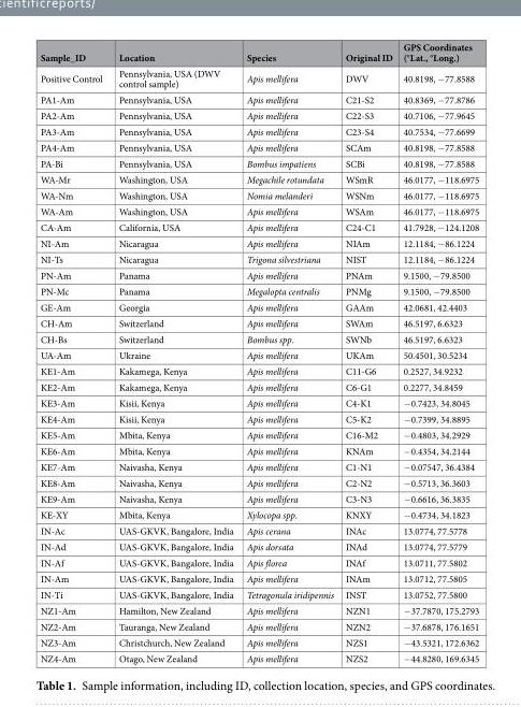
<table><thead><tr><td>Sample_ID</td><td>Location</td><td>Species</td><td>Original ID</td><td>GPS Coordinates (°Lat., °Long.)</td></tr></thead><tbody><tr><td>Positive Control</td><td>Pennsylvania, USA (DWV control sample)</td><td>Apis mellifera</td><td>DWV</td><td>40.8198, −77.8588</td></tr><tr><td>PA1-Am</td><td>Pennsylvania, USA</td><td>Apis mellifera</td><td>C21-S2</td><td>40.8369, −77.8786</td></tr><tr><td>PA2-Am</td><td>Pennsylvania, USA</td><td>Apis mellifera</td><td>C22-S3</td><td>40.7106, −77.9645</td></tr><tr><td>PA3-Am</td><td>Pennsylvania, USA</td><td>Apis mellifera</td><td>C23-S4</td><td>40.7534, −77.6699</td></tr><tr><td>PA4-Am</td><td>Pennsylvania, USA</td><td>Apis mellifera</td><td>SCAm</td><td>40.8198, −77.8588</td></tr><tr><td>PA-Bi</td><td>Pennsylvania, USA</td><td>Bombus impatiens</td><td>SCBi</td><td>40.8198, −77.8588</td></tr><tr><td>WA-Mr</td><td>Washington, USA</td><td>Megachile rotundata</td><td>WSmR</td><td>46.0177, −118.6975</td></tr><tr><td>WA-Nm</td><td>Washington, USA</td><td>Nomia melanderi</td><td>WSNm</td><td>46.0177, −118.6975</td></tr><tr><td>WA-Am</td><td>Washington, USA</td><td>Apis mellifera</td><td>WSAm</td><td>46.0177, −118.6975</td></tr><tr><td>CA-Am</td><td>California, USA</td><td>Apis mellifera</td><td>C24-C1</td><td>41.7928, −124.1208</td></tr><tr><td>NI-Am</td><td>Nicaragua</td><td>Apis mellifera</td><td>NIAm</td><td>12.1184, −86.1224</td></tr><tr><td>NI-Ts</td><td>Nicaragua</td><td>Trigona silvestriana</td><td>NIST</td><td>12.1184, −86.1224</td></tr><tr><td>PN-Am</td><td>Panama</td><td>Apis mellifera</td><td>PNAm</td><td>9.1500, −79.8500</td></tr><tr><td>PN-Mc</td><td>Panama</td><td>Megalopta centralis</td><td>PNMg</td><td>9.1500, −79.8500</td></tr><tr><td>GE-Am</td><td>Georgia</td><td>Apis mellifera</td><td>GAAm</td><td>42.0681, 42.4403</td></tr><tr><td>CH-Am</td><td>Switzerland</td><td>Apis mellifera</td><td>SWAm</td><td>46.5197, 6.6323</td></tr><tr><td>CH-Bs</td><td>Switzerland</td><td>Bombus spp.</td><td>SWNb</td><td>46.5197, 6.6323</td></tr><tr><td>UA-Am</td><td>Ukraine</td><td>Apis mellifera</td><td>UKAm</td><td>50.4501, 30.5234</td></tr><tr><td>KE1-Am</td><td>Kakamega, Kenya</td><td>Apis mellifera</td><td>C11-G6</td><td>0.2527, 34.9232</td></tr><tr><td>KE2-Am</td><td>Kakamega, Kenya</td><td>Apis mellifera</td><td>C6-G1</td><td>0.2277, 34.8459</td></tr><tr><td>KE3-Am</td><td>Kisii, Kenya</td><td>Apis mellifera</td><td>C4-K1</td><td>−0.7423, 34.8045</td></tr><tr><td>KE4-Am</td><td>Kisii, Kenya</td><td>Apis mellifera</td><td>C5-K2</td><td>−0.7399, 34.8895</td></tr><tr><td>KE5-Am</td><td>Mbita, Kenya</td><td>Apis mellifera</td><td>C16-M2</td><td>−0.4803, 34.2929</td></tr><tr><td>KE6-Am</td><td>Mbita, Kenya</td><td>Apis mellifera</td><td>KNAm</td><td>−0.4354, 34.2144</td></tr><tr><td>KE7-Am</td><td>Naivasha, Kenya</td><td>Apis mellifera</td><td>C1-N1</td><td>−0.07547, 36.4384</td></tr><tr><td>KE8-Am</td><td>Naivasha, Kenya</td><td>Apis mellifera</td><td>C2-N2</td><td>−0.5713, 36.3603</td></tr><tr><td>KE9-Am</td><td>Naivasha, Kenya</td><td>Apis mellifera</td><td>C3-N3</td><td>−0.6616, 36.3835</td></tr><tr><td>KE-XY</td><td>Mbita, Kenya</td><td>Xylocopa spp.</td><td>KNXY</td><td>−0.4734, 34.1823</td></tr><tr><td>IN-Ac</td><td>UAS-GKVK, Bangalore, India</td><td>Apis cerana</td><td>INAc</td><td>13.0774, 77.5778</td></tr><tr><td>IN-Ad</td><td>UAS-GKVK, Bangalore, India</td><td>Apis dorsata</td><td>INAd</td><td>13.0774, 77.5779</td></tr><tr><td>IN-Af</td><td>UAS-GKVK, Bangalore, India</td><td>Apis florea</td><td>INAf</td><td>13.0711, 77.5802</td></tr><tr><td>IN-Am</td><td>UAS-GKVK, Bangalore, India</td><td>Apis mellifera</td><td>INAm</td><td>13.0712, 77.5805</td></tr><tr><td>IN-Ti</td><td>UAS-GKVK, Bangalore, India</td><td>Tetragonula iridipennis</td><td>INST</td><td>13.0752, 77.5800</td></tr><tr><td>NZ1-Am</td><td>Hamilton, New Zealand</td><td>Apis mellifera</td><td>NZN1</td><td>−37.7870, 175.2793</td></tr><tr><td>NZ2-Am</td><td>Tauranga, New Zealand</td><td>Apis mellifera</td><td>NZN2</td><td>−37.6878, 176.1651</td></tr><tr><td>NZ3-Am</td><td>Christchurch, New Zealand</td><td>Apis mellifera</td><td>NZS1</td><td>−43.5321, 172.6362</td></tr><tr><td>NZ4-Am</td><td>Otago, New Zealand</td><td>Apis mellifera</td><td>NZS2</td><td>−44.8280, 169.6345</td></tr></tbody></table>